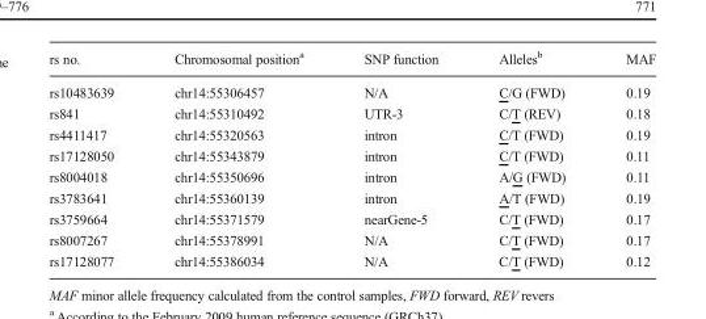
<table><thead><tr><td>rs no.</td><td>Chromosomal position<sup>a</sup></td><td>SNP function</td><td>Alleles<sup>b</sup></td><td>MAF</td></tr></thead><tbody><tr><td>rs10483639</td><td>chr14:55306457</td><td>N/A</td><td>C/G (FWD)</td><td>0.19</td></tr><tr><td>rs841</td><td>chr14:55310492</td><td>UTR-3</td><td>C/T (REV)</td><td>0.18</td></tr><tr><td>rs4411417</td><td>chr14:55320563</td><td>intron</td><td>C/T (FWD)</td><td>0.19</td></tr><tr><td>rs17128050</td><td>chr14:55343879</td><td>intron</td><td>C/T (FWD)</td><td>0.11</td></tr><tr><td>rs8004018</td><td>chr14:55350696</td><td>intron</td><td>A/G (FWD)</td><td>0.11</td></tr><tr><td>rs3783641</td><td>chr14:55360139</td><td>intron</td><td>A/T (FWD)</td><td>0.19</td></tr><tr><td>rs3759664</td><td>chr14:55371579</td><td>nearGene-5</td><td>C/T (FWD)</td><td>0.17</td></tr><tr><td>rs8007267</td><td>chr14:55378991</td><td>N/A</td><td>C/T (FWD)</td><td>0.17</td></tr><tr><td>rs17128077</td><td>chr14:55386034</td><td>N/A</td><td>C/T (FWD)</td><td>0.12</td></tr></tbody></table>